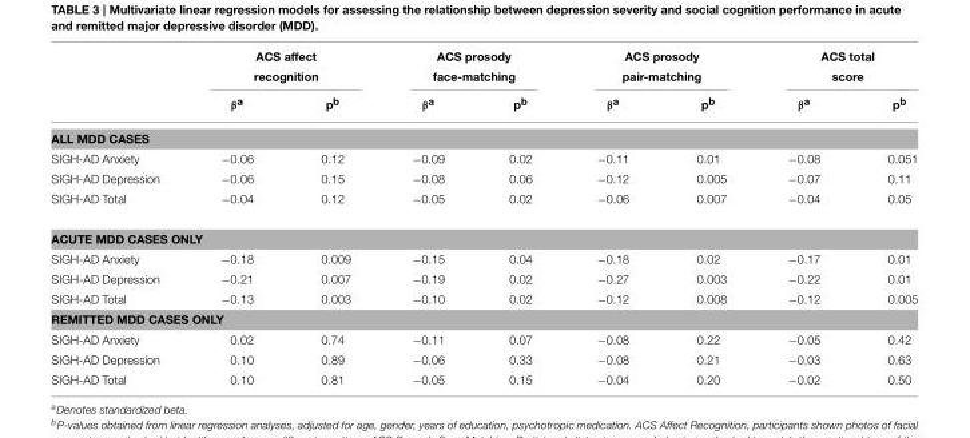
<table><thead><tr><td rowspan="2"></td><td colspan="2">ACS affect recognition</td><td colspan="2">ACS prosody face-matching</td><td colspan="2">ACS prosody pair-matching</td><td colspan="2">ACS total score</td></tr><tr><td>β<sup>a</sup></td><td>p<sup>b</sup></td><td>β<sup>a</sup></td><td>p<sup>b</sup></td><td>β<sup>a</sup></td><td>p<sup>b</sup></td><td>β<sup>a</sup></td><td>p<sup>b</sup></td></tr></thead><tbody><tr><td colspan="9">ALL MDD CASES</td></tr><tr><td>SIGH-AD Anxiety</td><td>−0.06</td><td>0.12</td><td>−0.09</td><td>0.02</td><td>−0.11</td><td>0.01</td><td>−0.08</td><td>0.051</td></tr><tr><td>SIGH-AD Depression</td><td>−0.06</td><td>0.15</td><td>−0.08</td><td>0.06</td><td>−0.12</td><td>0.005</td><td>−0.07</td><td>0.11</td></tr><tr><td>SIGH-AD Total</td><td>−0.04</td><td>0.12</td><td>−0.05</td><td>0.02</td><td>−0.06</td><td>0.007</td><td>−0.04</td><td>0.05</td></tr><tr><td colspan="9">ACUTE MDD CASES ONLY</td></tr><tr><td>SIGH-AD Anxiety</td><td>−0.18</td><td>0.009</td><td>−0.15</td><td>0.04</td><td>−0.18</td><td>0.02</td><td>−0.17</td><td>0.01</td></tr><tr><td>SIGH-AD Depression</td><td>−0.21</td><td>0.007</td><td>−0.19</td><td>0.02</td><td>−0.27</td><td>0.003</td><td>−0.22</td><td>0.01</td></tr><tr><td>SIGH-AD Total</td><td>−0.13</td><td>0.003</td><td>−0.10</td><td>0.02</td><td>−0.12</td><td>0.008</td><td>−0.12</td><td>0.005</td></tr><tr><td colspan="9">REMITTED MDD CASES ONLY</td></tr><tr><td>SIGH-AD Anxiety</td><td>0.02</td><td>0.74</td><td>−0.11</td><td>0.07</td><td>−0.08</td><td>0.22</td><td>−0.05</td><td>0.42</td></tr><tr><td>SIGH-AD Depression</td><td>0.10</td><td>0.89</td><td>−0.06</td><td>0.33</td><td>−0.08</td><td>0.21</td><td>−0.03</td><td>0.63</td></tr><tr><td>SIGH-AD Total</td><td>0.10</td><td>0.81</td><td>−0.05</td><td>0.15</td><td>−0.04</td><td>0.20</td><td>−0.02</td><td>0.50</td></tr></tbody></table>